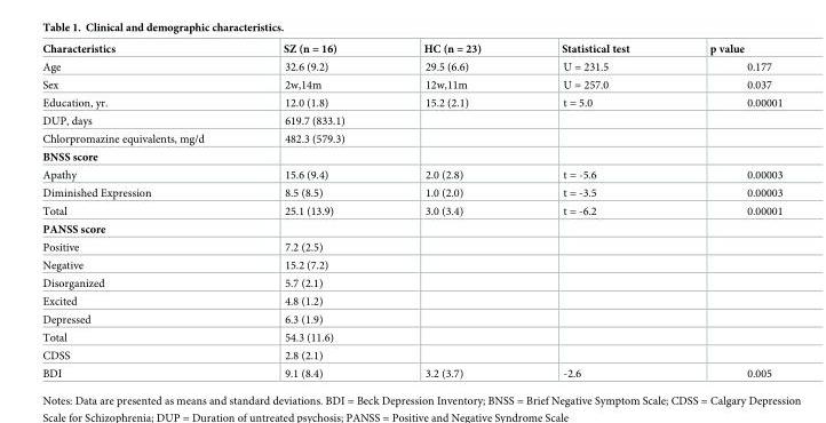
<table><thead><tr><td>Characteristics</td><td>SZ (n = 16)</td><td>HC (n = 23)</td><td>Statistical test</td><td>p value</td></tr></thead><tbody><tr><td>Age</td><td>32.6 (9.2)</td><td>29.5 (6.6)</td><td>U = 231.5</td><td>0.177</td></tr><tr><td>Sex</td><td>2w,14m</td><td>12w,11m</td><td>U = 257.0</td><td>0.037</td></tr><tr><td>Education, yr.</td><td>12.0 (1.8)</td><td>15.2 (2.1)</td><td>t = 5.0</td><td>0.00001</td></tr><tr><td>DUP, days</td><td>619.7 (833.1)</td><td></td><td></td><td></td></tr><tr><td>Chlorpromazine equivalents, mg/d</td><td>482.3 (579.3)</td><td></td><td></td><td></td></tr><tr><td colspan="5">BNSS score</td></tr><tr><td>Apathy</td><td>15.6 (9.4)</td><td>2.0 (2.8)</td><td>t = -5.6</td><td>0.00003</td></tr><tr><td>Diminished Expression</td><td>8.5 (8.5)</td><td>1.0 (2.0)</td><td>t = -3.5</td><td>0.00003</td></tr><tr><td>Total</td><td>25.1 (13.9)</td><td>3.0 (3.4)</td><td>t = -6.2</td><td>0.00001</td></tr><tr><td colspan="5">PANSS score</td></tr><tr><td>Positive</td><td>7.2 (2.5)</td><td></td><td></td><td></td></tr><tr><td>Negative</td><td>15.2 (7.2)</td><td></td><td></td><td></td></tr><tr><td>Disorganized</td><td>5.7 (2.1)</td><td></td><td></td><td></td></tr><tr><td>Excited</td><td>4.8 (1.2)</td><td></td><td></td><td></td></tr><tr><td>Depressed</td><td>6.3 (1.9)</td><td></td><td></td><td></td></tr><tr><td>Total</td><td>54.3 (11.6)</td><td></td><td></td><td></td></tr><tr><td>CDSS</td><td>2.8 (2.1)</td><td></td><td></td><td></td></tr><tr><td>BDI</td><td>9.1 (8.4)</td><td>3.2 (3.7)</td><td>-2.6</td><td>0.005</td></tr></tbody></table>